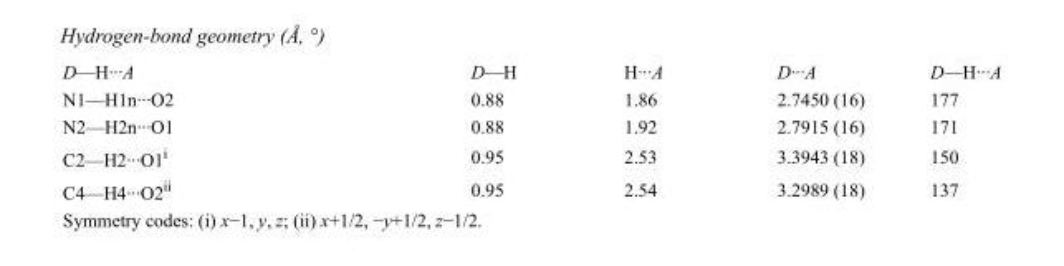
<table><tbody><tr><td>D—H···A</td><td>D—H</td><td>H···A</td><td>D···A</td><td>D—H···A</td></tr><tr><td>N1—H1n···O2</td><td>0.88</td><td>1.86</td><td>2.7450 (16)</td><td>177</td></tr><tr><td>N2—H2n···O1</td><td>0.88</td><td>1.92</td><td>2.7915 (16)</td><td>171</td></tr><tr><td>C2—H2···O1<sup>i</sup></td><td>0.95</td><td>2.53</td><td>3.3943 (18)</td><td>150</td></tr><tr><td>C4—H4···O2<sup>ii</sup></td><td>0.95</td><td>2.54</td><td>3.2989 (18)</td><td>137</td></tr></tbody></table>